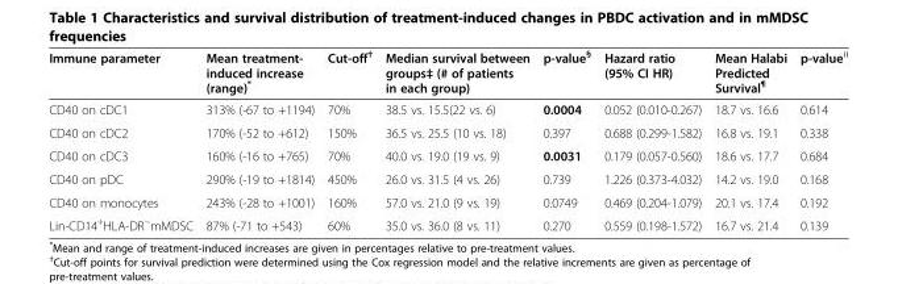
<table><thead><tr><td>Immune parameter</td><td>Mean treatment- induced increase (range)*</td><td>Cut-off<sup>†</sup></td><td>Median survival between groups‡ (# of patients in each group)</td><td>p-value<sup>§</sup></td><td>Hazard ratio (95% CI HR)</td><td>Mean Halabi Predicted Survival<sup>¶</sup></td><td>p-value<sup>׀׀</sup></td></tr></thead><tbody><tr><td>CD40 on cDC1</td><td>313% (-67 to +1194)</td><td>70%</td><td>38.5 vs. 15.5(22 vs. 6)</td><td>0.0004</td><td>0.052 (0.010-0.267)</td><td>18.7 vs. 16.6</td><td>0.614</td></tr><tr><td>CD40 on cDC2</td><td>170% (-52 to +612)</td><td>150%</td><td>36.5 vs. 25.5 (10 vs. 18)</td><td>0.397</td><td>0.688 (0.299-1.582)</td><td>16.8 vs. 19.1</td><td>0.338</td></tr><tr><td>CD40 on cDC3</td><td>160% (-16 to +765)</td><td>70%</td><td>40.0 vs. 19.0 (19 vs. 9)</td><td>0.0031</td><td>0.179 (0.057-0.560)</td><td>18.6 vs. 17.7</td><td>0.684</td></tr><tr><td>CD40 on pDC</td><td>290% (-19 to +1814)</td><td>450%</td><td>26.0 vs. 31.5 (4 vs. 26)</td><td>0.739</td><td>1.226 (0.373-4.032)</td><td>14.2 vs. 19.0</td><td>0.168</td></tr><tr><td>CD40 on monocytes</td><td>243% (-28 to +1001)</td><td>160%</td><td>57.0 vs. 21.0 (9 vs. 19)</td><td>0.0749</td><td>0.469 (0.204-1.079)</td><td>20.1 vs. 17.4</td><td>0.192</td></tr><tr><td>Lin-CD14<sup>+</sup>HLA-DR<sup>−</sup>mMDSC</td><td>87% (-71 to +543)</td><td>60%</td><td>35.0 vs. 36.0 (8 vs. 11)</td><td>0.270</td><td>0.559 (0.198-1.572)</td><td>16.7 vs. 21.4</td><td>0.139</td></tr></tbody></table>